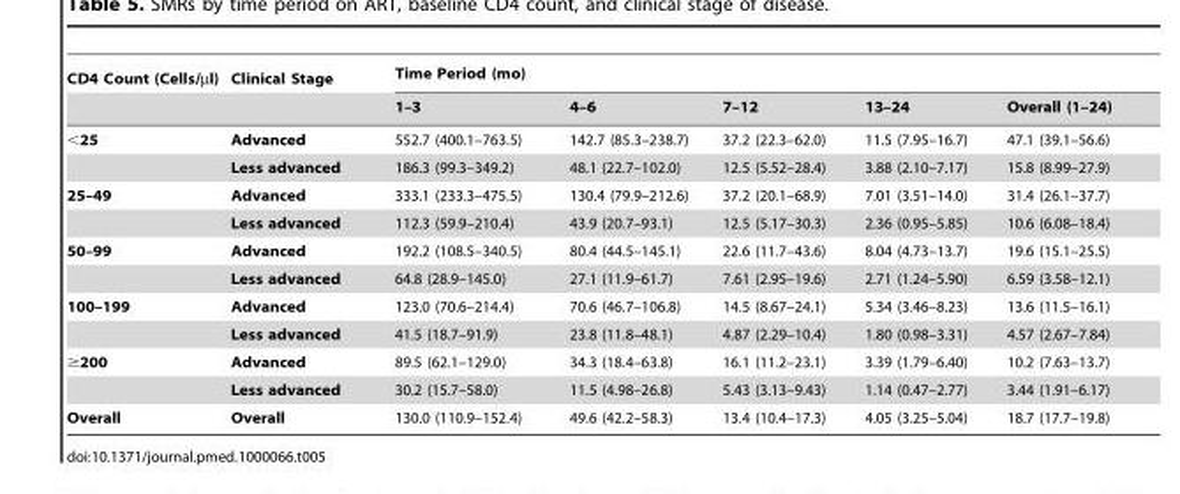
<table><thead><tr><td rowspan="2">CD4 Count (Cells/µl)</td><td rowspan="2">Clinical Stage</td><td colspan="5">Time Period (mo)</td></tr><tr><td>1–3</td><td>4–6</td><td>7–12</td><td>13–24</td><td>Overall (1–24)</td></tr></thead><tbody><tr><td rowspan="2">&lt;25</td><td>Advanced</td><td>552.7 (400.1–763.5)</td><td>142.7 (85.3–238.7)</td><td>37.2 (22.3–62.0)</td><td>11.5 (7.95–16.7)</td><td>47.1 (39.1–56.6)</td></tr><tr><td>Less advanced</td><td>186.3 (99.3–349.2)</td><td>48.1 (22.7–102.0)</td><td>12.5 (5.52–28.4)</td><td>3.88 (2.10–7.17)</td><td>15.8 (8.99–27.9)</td></tr><tr><td rowspan="2">25–49</td><td>Advanced</td><td>333.1 (233.3–475.5)</td><td>130.4 (79.9–212.6)</td><td>37.2 (20.1–68.9)</td><td>7.01 (3.51–14.0)</td><td>31.4 (26.1–37.7)</td></tr><tr><td>Less advanced</td><td>112.3 (59.9–210.4)</td><td>43.9 (20.7–93.1)</td><td>12.5 (5.17–30.3)</td><td>2.36 (0.95–5.85)</td><td>10.6 (6.08–18.4)</td></tr><tr><td rowspan="2">50–99</td><td>Advanced</td><td>192.2 (108.5–340.5)</td><td>80.4 (44.5–145.1)</td><td>22.6 (11.7–43.6)</td><td>8.04 (4.73–13.7)</td><td>19.6 (15.1–25.5)</td></tr><tr><td>Less advanced</td><td>64.8 (28.9–145.0)</td><td>27.1 (11.9–61.7)</td><td>7.61 (2.95–19.6)</td><td>2.71 (1.24–5.90)</td><td>6.59 (3.58–12.1)</td></tr><tr><td rowspan="2">100–199</td><td>Advanced</td><td>123.0 (70.6–214.4)</td><td>70.6 (46.7–106.8)</td><td>14.5 (8.67–24.1)</td><td>5.34 (3.46–8.23)</td><td>13.6 (11.5–16.1)</td></tr><tr><td>Less advanced</td><td>41.5 (18.7–91.9)</td><td>23.8 (11.8–48.1)</td><td>4.87 (2.29–10.4)</td><td>1.80 (0.98–3.31)</td><td>4.57 (2.67–7.84)</td></tr><tr><td rowspan="2">≥200</td><td>Advanced</td><td>89.5 (62.1–129.0)</td><td>34.3 (18.4–63.8)</td><td>16.1 (11.2–23.1)</td><td>3.39 (1.79–6.40)</td><td>10.2 (7.63–13.7)</td></tr><tr><td>Less advanced</td><td>30.2 (15.7–58.0)</td><td>11.5 (4.98–26.8)</td><td>5.43 (3.13–9.43)</td><td>1.14 (0.47–2.77)</td><td>3.44 (1.91–6.17)</td></tr><tr><td>Overall</td><td>Overall</td><td>130.0 (110.9–152.4)</td><td>49.6 (42.2–58.3)</td><td>13.4 (10.4–17.3)</td><td>4.05 (3.25–5.04)</td><td>18.7 (17.7–19.8)</td></tr></tbody></table>